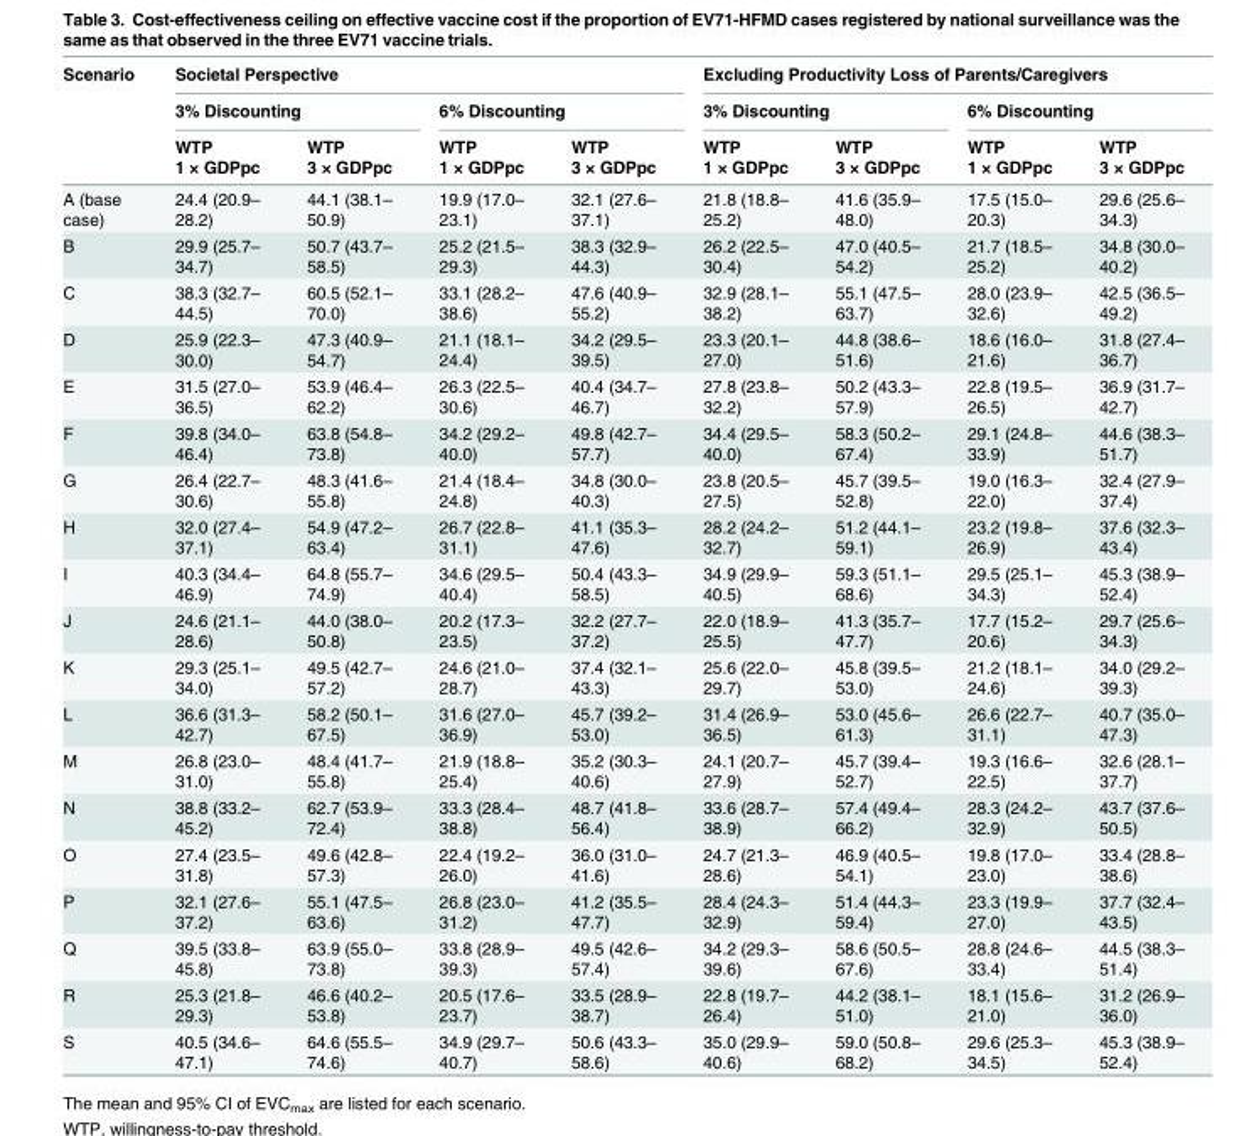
<table><thead><tr><td rowspan="3">Scenario</td><td colspan="4">Societal Perspective</td><td colspan="4">Excluding Productivity Loss of Parents/Caregivers</td></tr><tr><td colspan="2">3% Discounting</td><td colspan="2">6% Discounting</td><td colspan="2">3% Discounting</td><td colspan="2">6% Discounting</td></tr><tr><td>WTP 1 × GDPpc</td><td>WTP 3 × GDPpc</td><td>WTP 1 × GDPpc</td><td>WTP 3 × GDPpc</td><td>WTP 1 × GDPpc</td><td>WTP 3 × GDPpc</td><td>WTP 1 × GDPpc</td><td>WTP 3 × GDPpc</td></tr></thead><tbody><tr><td>A (base case)</td><td>24.4 (20.9– 28.2)</td><td>44.1 (38.1– 50.9)</td><td>19.9 (17.0– 23.1)</td><td>32.1 (27.6– 37.1)</td><td>21.8 (18.8– 25.2)</td><td>41.6 (35.9– 48.0)</td><td>17.5 (15.0– 20.3)</td><td>29.6 (25.6– 34.3)</td></tr><tr><td>B</td><td>29.9 (25.7– 34.7)</td><td>50.7 (43.7– 58.5)</td><td>25.2 (21.5– 29.3)</td><td>38.3 (32.9– 44.3)</td><td>26.2 (22.5– 30.4)</td><td>47.0 (40.5– 54.2)</td><td>21.7 (18.5– 25.2)</td><td>34.8 (30.0– 40.2)</td></tr><tr><td>C</td><td>38.3 (32.7– 44.5)</td><td>60.5 (52.1– 70.0)</td><td>33.1 (28.2– 38.6)</td><td>47.6 (40.9– 55.2)</td><td>32.9 (28.1– 38.2)</td><td>55.1 (47.5– 63.7)</td><td>28.0 (23.9– 32.6)</td><td>42.5 (36.5– 49.2)</td></tr><tr><td>D</td><td>25.9 (22.3– 30.0)</td><td>47.3 (40.9– 54.7)</td><td>21.1 (18.1– 24.4)</td><td>34.2 (29.5– 39.5)</td><td>23.3 (20.1– 27.0)</td><td>44.8 (38.6– 51.6)</td><td>18.6 (16.0– 21.6)</td><td>31.8 (27.4– 36.7)</td></tr><tr><td>E</td><td>31.5 (27.0– 36.5)</td><td>53.9 (46.4– 62.2)</td><td>26.3 (22.5– 30.6)</td><td>40.4 (34.7– 46.7)</td><td>27.8 (23.8– 32.2)</td><td>50.2 (43.3– 57.9)</td><td>22.8 (19.5– 26.5)</td><td>36.9 (31.7– 42.7)</td></tr><tr><td>F</td><td>39.8 (34.0– 46.4)</td><td>63.8 (54.8– 73.8)</td><td>34.2 (29.2– 40.0)</td><td>49.8 (42.7– 57.7)</td><td>34.4 (29.5– 40.0)</td><td>58.3 (50.2– 67.4)</td><td>29.1 (24.8– 33.9)</td><td>44.6 (38.3– 51.7)</td></tr><tr><td>G</td><td>26.4 (22.7– 30.6)</td><td>48.3 (41.6– 55.8)</td><td>21.4 (18.4– 24.8)</td><td>34.8 (30.0– 40.3)</td><td>23.8 (20.5– 27.5)</td><td>45.7 (39.5– 52.8)</td><td>19.0 (16.3– 22.0)</td><td>32.4 (27.9– 37.4)</td></tr><tr><td>H</td><td>32.0 (27.4– 37.1)</td><td>54.9 (47.2– 63.4)</td><td>26.7 (22.8– 31.1)</td><td>41.1 (35.3– 47.6)</td><td>28.2 (24.2– 32.7)</td><td>51.2 (44.1– 59.1)</td><td>23.2 (19.8– 26.9)</td><td>37.6 (32.3– 43.4)</td></tr><tr><td>I</td><td>40.3 (34.4– 46.9)</td><td>64.8 (55.7– 74.9)</td><td>34.6 (29.5– 40.4)</td><td>50.4 (43.3– 58.5)</td><td>34.9 (29.9– 40.5)</td><td>59.3 (51.1– 68.6)</td><td>29.5 (25.1– 34.3)</td><td>45.3 (38.9– 52.4)</td></tr><tr><td>J</td><td>24.6 (21.1– 28.6)</td><td>44.0 (38.0– 50.8)</td><td>20.2 (17.3– 23.5)</td><td>32.2 (27.7– 37.2)</td><td>22.0 (18.9– 25.5)</td><td>41.3 (35.7– 47.7)</td><td>17.7 (15.2– 20.6)</td><td>29.7 (25.6– 34.3)</td></tr><tr><td>K</td><td>29.3 (25.1– 34.0)</td><td>49.5 (42.7– 57.2)</td><td>24.6 (21.0– 28.7)</td><td>37.4 (32.1– 43.3)</td><td>25.6 (22.0– 29.7)</td><td>45.8 (39.5– 53.0)</td><td>21.2 (18.1– 24.6)</td><td>34.0 (29.2– 39.3)</td></tr><tr><td>L</td><td>36.6 (31.3– 42.7)</td><td>58.2 (50.1– 67.5)</td><td>31.6 (27.0– 36.9)</td><td>45.7 (39.2– 53.0)</td><td>31.4 (26.9– 36.5)</td><td>53.0 (45.6– 61.3)</td><td>26.6 (22.7– 31.1)</td><td>40.7 (35.0– 47.3)</td></tr><tr><td>M</td><td>26.8 (23.0– 31.0)</td><td>48.4 (41.7– 55.8)</td><td>21.9 (18.8– 25.4)</td><td>35.2 (30.3– 40.6)</td><td>24.1 (20.7– 27.9)</td><td>45.7 (39.4– 52.7)</td><td>19.3 (16.6– 22.5)</td><td>32.6 (28.1– 37.7)</td></tr><tr><td>N</td><td>38.8 (33.2– 45.2)</td><td>62.7 (53.9– 72.4)</td><td>33.3 (28.4– 38.8)</td><td>48.7 (41.8– 56.4)</td><td>33.6 (28.7– 38.9)</td><td>57.4 (49.4– 66.2)</td><td>28.3 (24.2– 32.9)</td><td>43.7 (37.6– 50.5)</td></tr><tr><td>O</td><td>27.4 (23.5– 31.8)</td><td>49.6 (42.8– 57.3)</td><td>22.4 (19.2– 26.0)</td><td>36.0 (31.0– 41.6)</td><td>24.7 (21.3– 28.6)</td><td>46.9 (40.5– 54.1)</td><td>19.8 (17.0– 23.0)</td><td>33.4 (28.8– 38.6)</td></tr><tr><td>P</td><td>32.1 (27.6– 37.2)</td><td>55.1 (47.5– 63.6)</td><td>26.8 (23.0– 31.2)</td><td>41.2 (35.5– 47.7)</td><td>28.4 (24.3– 32.9)</td><td>51.4 (44.3– 59.4)</td><td>23.3 (19.9– 27.0)</td><td>37.7 (32.4– 43.5)</td></tr><tr><td>Q</td><td>39.5 (33.8– 45.8)</td><td>63.9 (55.0– 73.8)</td><td>33.8 (28.9– 39.3)</td><td>49.5 (42.6– 57.4)</td><td>34.2 (29.3– 39.6)</td><td>58.6 (50.5– 67.6)</td><td>28.8 (24.6– 33.4)</td><td>44.5 (38.3– 51.4)</td></tr><tr><td>R</td><td>25.3 (21.8– 29.3)</td><td>46.6 (40.2– 53.8)</td><td>20.5 (17.6– 23.7)</td><td>33.5 (28.9– 38.7)</td><td>22.8 (19.7– 26.4)</td><td>44.2 (38.1– 51.0)</td><td>18.1 (15.6– 21.0)</td><td>31.2 (26.9– 36.0)</td></tr><tr><td>S</td><td>40.5 (34.6– 47.1)</td><td>64.6 (55.5– 74.6)</td><td>34.9 (29.7– 40.7)</td><td>50.6 (43.3– 58.6)</td><td>35.0 (29.9– 40.6)</td><td>59.0 (50.8– 68.2)</td><td>29.6 (25.3– 34.5)</td><td>45.3 (38.9– 52.4)</td></tr></tbody></table>